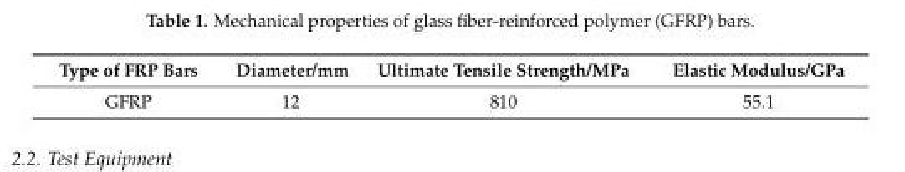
<table><thead><tr><td>Type of FRP Bars</td><td>Diameter/mm</td><td>Ultimate Tensile Strength/MPa</td><td>Elastic Modulus/GPa</td></tr></thead><tbody><tr><td>GFRP</td><td>12</td><td>810</td><td>55.1</td></tr></tbody></table>